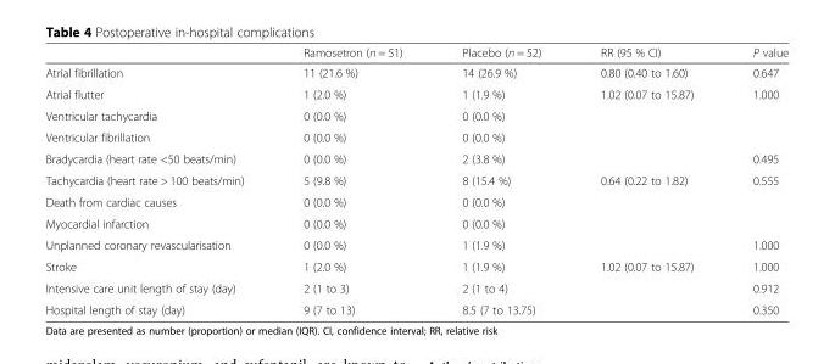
<table><thead><tr><td></td><td>Ramosetron (n = 51)</td><td>Placebo (n = 52)</td><td>RR (95 % CI)</td><td>P value</td></tr></thead><tbody><tr><td>Atrial fibrillation</td><td>11 (21.6 %)</td><td>14 (26.9 %)</td><td>0.80 (0.40 to 1.60)</td><td>0.647</td></tr><tr><td>Atrial flutter</td><td>1 (2.0 %)</td><td>1 (1.9 %)</td><td>1.02 (0.07 to 15.87)</td><td>1.000</td></tr><tr><td>Ventricular tachycardia</td><td>0 (0.0 %)</td><td>0 (0.0 %)</td><td></td><td></td></tr><tr><td>Ventricular fibrillation</td><td>0 (0.0 %)</td><td>0 (0.0 %)</td><td></td><td></td></tr><tr><td>Bradycardia (heart rate &lt;50 beats/min)</td><td>0 (0.0 %)</td><td>2 (3.8 %)</td><td></td><td>0.495</td></tr><tr><td>Tachycardia (heart rate &gt; 100 beats/min)</td><td>5 (9.8 %)</td><td>8 (15.4 %)</td><td>0.64 (0.22 to 1.82)</td><td>0.555</td></tr><tr><td>Death from cardiac causes</td><td>0 (0.0 %)</td><td>0 (0.0 %)</td><td></td><td></td></tr><tr><td>Myocardial infarction</td><td>0 (0.0 %)</td><td>0 (0.0 %)</td><td></td><td></td></tr><tr><td>Unplanned coronary revascularisation</td><td>0 (0.0 %)</td><td>1 (1.9 %)</td><td></td><td>1.000</td></tr><tr><td>Stroke</td><td>1 (2.0 %)</td><td>1 (1.9 %)</td><td>1.02 (0.07 to 15.87)</td><td>1.000</td></tr><tr><td>Intensive care unit length of stay (day)</td><td>2 (1 to 3)</td><td>2 (1 to 4)</td><td></td><td>0.912</td></tr><tr><td>Hospital length of stay (day)</td><td>9 (7 to 13)</td><td>8.5 (7 to 13.75)</td><td></td><td>0.350</td></tr></tbody></table>